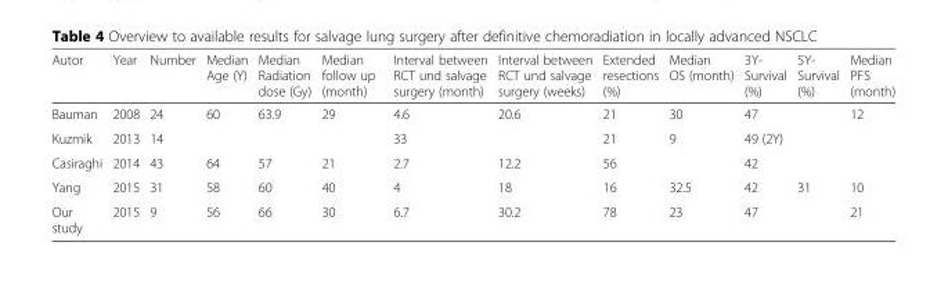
<table><thead><tr><td>Autor</td><td>Year</td><td>Number</td><td>Median Age (Y)</td><td>Median Radiation dose (Gy)</td><td>Median follow up (month)</td><td>Interval between RCT und salvage surgery (month)</td><td>Interval between RCT und salvage surgery (weeks)</td><td>Extended resections (%)</td><td>Median OS (month)</td><td>3Y- Survival (%)</td><td>5Y- Survival (%)</td><td>Median PFS (month)</td></tr></thead><tbody><tr><td>Bauman</td><td>2008</td><td>24</td><td>60</td><td>63.9</td><td>29</td><td>4.6</td><td>20.6</td><td>21</td><td>30</td><td>47</td><td></td><td>12</td></tr><tr><td>Kuzmik</td><td>2013</td><td>14</td><td></td><td></td><td></td><td>33</td><td></td><td>21</td><td>9</td><td>49 (2Y)</td><td></td><td></td></tr><tr><td>Casiraghi</td><td>2014</td><td>43</td><td>64</td><td>57</td><td>21</td><td>2.7</td><td>12.2</td><td>56</td><td></td><td>42</td><td></td><td></td></tr><tr><td>Yang</td><td>2015</td><td>31</td><td>58</td><td>60</td><td>40</td><td>4</td><td>18</td><td>16</td><td>32.5</td><td>42</td><td>31</td><td>10</td></tr><tr><td>Our study</td><td>2015</td><td>9</td><td>56</td><td>66</td><td>30</td><td>6.7</td><td>30.2</td><td>78</td><td>23</td><td>47</td><td></td><td>21</td></tr></tbody></table>